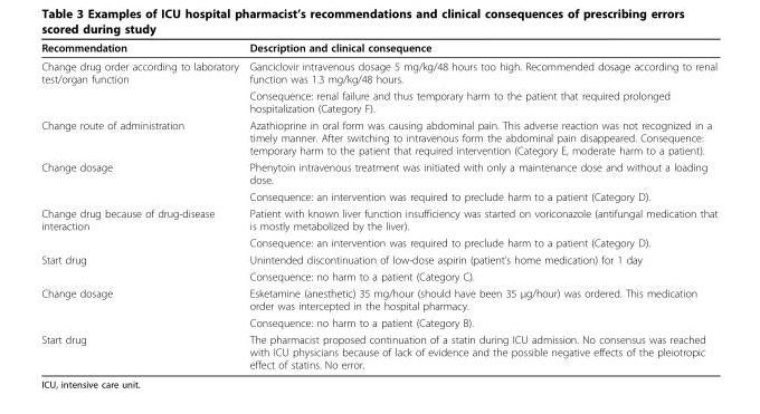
<table><thead><tr><td>Recommendation</td><td>Description and clinical consequence</td></tr></thead><tbody><tr><td rowspan="2">Change drug order according to laboratory test/organ function</td><td>Ganciclovir intravenous dosage 5 mg/kg/48 hours too high. Recommended dosage according to renal function was 1.3 mg/kg/48 hours.</td></tr><tr><td>Consequence: renal failure and thus temporary harm to the patient that required prolonged hospitalization (Category F).</td></tr><tr><td>Change route of administration</td><td>Azathioprine in oral form was causing abdominal pain. This adverse reaction was not recognized in a timely manner. After switching to intravenous form the abdominal pain disappeared. Consequence: temporary harm to the patient that required intervention (Category E, moderate harm to a patient).</td></tr><tr><td rowspan="2">Change dosage</td><td>Phenytoin intravenous treatment was initiated with only a maintenance dose and without a loading dose.</td></tr><tr><td>Consequence: an intervention was required to preclude harm to a patient (Category D).</td></tr><tr><td rowspan="2">Change drug because of drug-disease interaction</td><td>Patient with known liver function insufficiency was started on voriconazole (antifungal medication that is mostly metabolized by the liver).</td></tr><tr><td>Consequence: an intervention was required to preclude harm to a patient (Category D).</td></tr><tr><td rowspan="2">Start drug</td><td>Unintended discontinuation of low-dose aspirin (patient’s home medication) for 1 day</td></tr><tr><td>Consequence: no harm to a patient (Category C).</td></tr><tr><td rowspan="2">Change dosage</td><td>Esketamine (anesthetic) 35 mg/hour (should have been 35 μg/hour) was ordered. This medication order was intercepted in the hospital pharmacy.</td></tr><tr><td>Consequence: no harm to a patient (Category B).</td></tr><tr><td>Start drug</td><td>The pharmacist proposed continuation of a statin during ICU admission. No consensus was reached with ICU physicians because of lack of evidence and the possible negative effects of the pleiotropic effect of statins. No error.</td></tr></tbody></table>